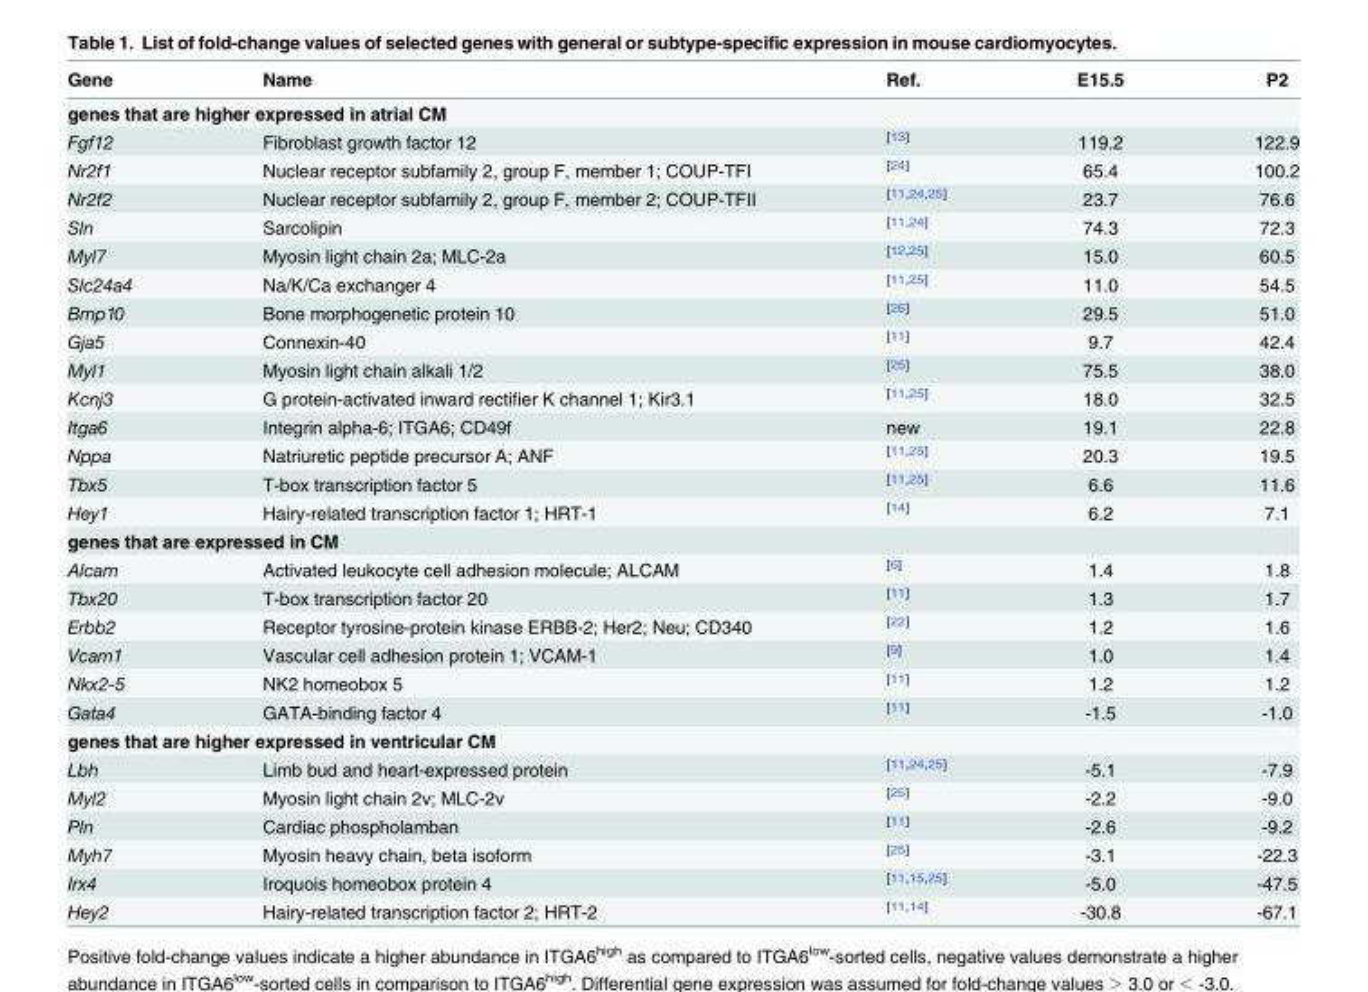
<table><thead><tr><td>Gene</td><td>Name</td><td>Ref.</td><td>E15.5</td><td>P2</td></tr></thead><tbody><tr><td colspan="5">genes that are higher expressed in atrial CM</td></tr><tr><td>Fgf12</td><td>Fibroblast growth factor 12</td><td><sup>[13]</sup></td><td>119.2</td><td>122.9</td></tr><tr><td>Nr2f1</td><td>Nuclear receptor subfamily 2, group F, member 1; COUP-TFI</td><td><sup>[24]</sup></td><td>65.4</td><td>100.2</td></tr><tr><td>Nr2f2</td><td>Nuclear receptor subfamily 2, group F, member 2; COUP-TFII</td><td><sup>[11,24,25]</sup></td><td>23.7</td><td>76.6</td></tr><tr><td>Sln</td><td>Sarcolipin</td><td><sup>[11,24]</sup></td><td>74.3</td><td>72.3</td></tr><tr><td>Myl7</td><td>Myosin light chain 2a; MLC-2a</td><td><sup>[12,25]</sup></td><td>15.0</td><td>60.5</td></tr><tr><td>Slc24a4</td><td>Na/K/Ca exchanger 4</td><td><sup>[11,25]</sup></td><td>11.0</td><td>54.5</td></tr><tr><td>Bmp10</td><td>Bone morphogenetic protein 10</td><td><sup>[26]</sup></td><td>29.5</td><td>51.0</td></tr><tr><td>Gja5</td><td>Connexin-40</td><td><sup>[11]</sup></td><td>9.7</td><td>42.4</td></tr><tr><td>Myl1</td><td>Myosin light chain alkali 1/2</td><td><sup>[25]</sup></td><td>75.5</td><td>38.0</td></tr><tr><td>Kcnj3</td><td>G protein-activated inward rectifier K channel 1; Kir3.1</td><td><sup>[11,25]</sup></td><td>18.0</td><td>32.5</td></tr><tr><td>Itga6</td><td>Integrin alpha-6; ITGA6; CD49f</td><td>new</td><td>19.1</td><td>22.8</td></tr><tr><td>Nppa</td><td>Natriuretic peptide precursor A; ANF</td><td><sup>[11,25]</sup></td><td>20.3</td><td>19.5</td></tr><tr><td>Tbx5</td><td>T-box transcription factor 5</td><td><sup>[11,25]</sup></td><td>6.6</td><td>11.6</td></tr><tr><td>Hey1</td><td>Hairy-related transcription factor 1; HRT-1</td><td><sup>[14]</sup></td><td>6.2</td><td>7.1</td></tr><tr><td colspan="5">genes that are expressed in CM</td></tr><tr><td>Alcam</td><td>Activated leukocyte cell adhesion molecule; ALCAM</td><td><sup>[6]</sup></td><td>1.4</td><td>1.8</td></tr><tr><td>Tbx20</td><td>T-box transcription factor 20</td><td><sup>[11]</sup></td><td>1.3</td><td>1.7</td></tr><tr><td>Erbb2</td><td>Receptor tyrosine-protein kinase ERBB-2; Her2; Neu; CD340</td><td><sup>[22]</sup></td><td>1.2</td><td>1.6</td></tr><tr><td>Vcam1</td><td>Vascular cell adhesion protein 1; VCAM-1</td><td><sup>[9]</sup></td><td>1.0</td><td>1.4</td></tr><tr><td>Nkx2-5</td><td>NK2 homeobox 5</td><td><sup>[11]</sup></td><td>1.2</td><td>1.2</td></tr><tr><td>Gata4</td><td>GATA-binding factor 4</td><td><sup>[11]</sup></td><td>-1.5</td><td>-1.0</td></tr><tr><td colspan="5">genes that are higher expressed in ventricular CM</td></tr><tr><td>Lbh</td><td>Limb bud and heart-expressed protein</td><td><sup>[11,24,25]</sup></td><td>-5.1</td><td>-7.9</td></tr><tr><td>Myl2</td><td>Myosin light chain 2v; MLC-2v</td><td><sup>[25]</sup></td><td>-2.2</td><td>-9.0</td></tr><tr><td>Pln</td><td>Cardiac phospholamban</td><td><sup>[11]</sup></td><td>-2.6</td><td>-9.2</td></tr><tr><td>Myh7</td><td>Myosin heavy chain, beta isoform</td><td><sup>[25]</sup></td><td>-3.1</td><td>-22.3</td></tr><tr><td>Irx4</td><td>Iroquois homeobox protein 4</td><td><sup>[11,15,25]</sup></td><td>-5.0</td><td>-47.5</td></tr><tr><td>Hey2</td><td>Hairy-related transcription factor 2; HRT-2</td><td><sup>[11,14]</sup></td><td>-30.8</td><td>-67.1</td></tr></tbody></table>